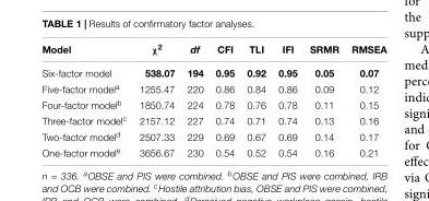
<table><thead><tr><td>Model</td><td>χ<sup>2</sup></td><td>df</td><td>CFI</td><td>TLI</td><td>IFI</td><td>SRMR</td><td>RMSEA</td></tr></thead><tbody><tr><td>Six-factor model</td><td>538.07</td><td>194</td><td>0.95</td><td>0.92</td><td>0.95</td><td>0.05</td><td>0.07</td></tr><tr><td>Five-factor model<sup>a</sup></td><td>1255.47</td><td>220</td><td>0.86</td><td>0.84</td><td>0.86</td><td>0.09</td><td>0.12</td></tr><tr><td>Four-factor model<sup>b</sup></td><td>1850.74</td><td>224</td><td>0.78</td><td>0.76</td><td>0.78</td><td>0.11</td><td>0.15</td></tr><tr><td>Three-factor model<sup>c</sup></td><td>2157.12</td><td>227</td><td>0.74</td><td>0.71</td><td>0.74</td><td>0.13</td><td>0.16</td></tr><tr><td>Two-factor model<sup>d</sup></td><td>2507.33</td><td>229</td><td>0.69</td><td>0.67</td><td>0.69</td><td>0.14</td><td>0.17</td></tr><tr><td>One-factor model<sup>e</sup></td><td>3656.67</td><td>230</td><td>0.54</td><td>0.52</td><td>0.54</td><td>0.16</td><td>0.21</td></tr></tbody></table>